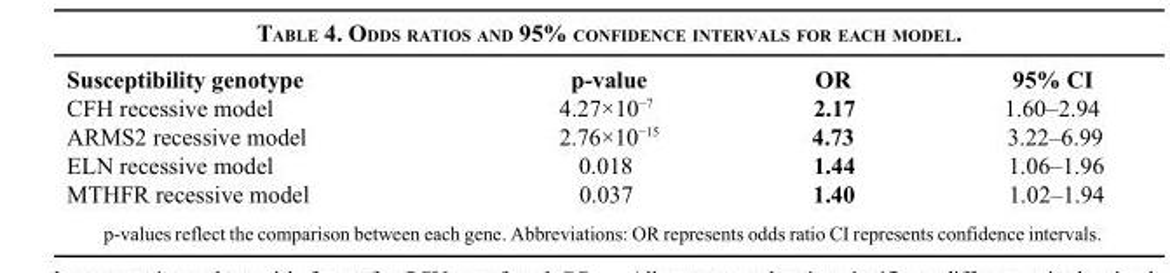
<table><thead><tr><td>Susceptibility genotype</td><td>p-value</td><td>OR</td><td>95% CI</td></tr></thead><tbody><tr><td>CFH recessive model</td><td>4.27×10<sup>−7</sup></td><td>2.17</td><td>1.60–2.94</td></tr><tr><td>ARMS2 recessive model</td><td>2.76×10<sup>−15</sup></td><td>4.73</td><td>3.22–6.99</td></tr><tr><td>ELN recessive model</td><td>0.018</td><td>1.44</td><td>1.06–1.96</td></tr><tr><td>MTHFR recessive model</td><td>0.037</td><td>1.40</td><td>1.02–1.94</td></tr></tbody></table>